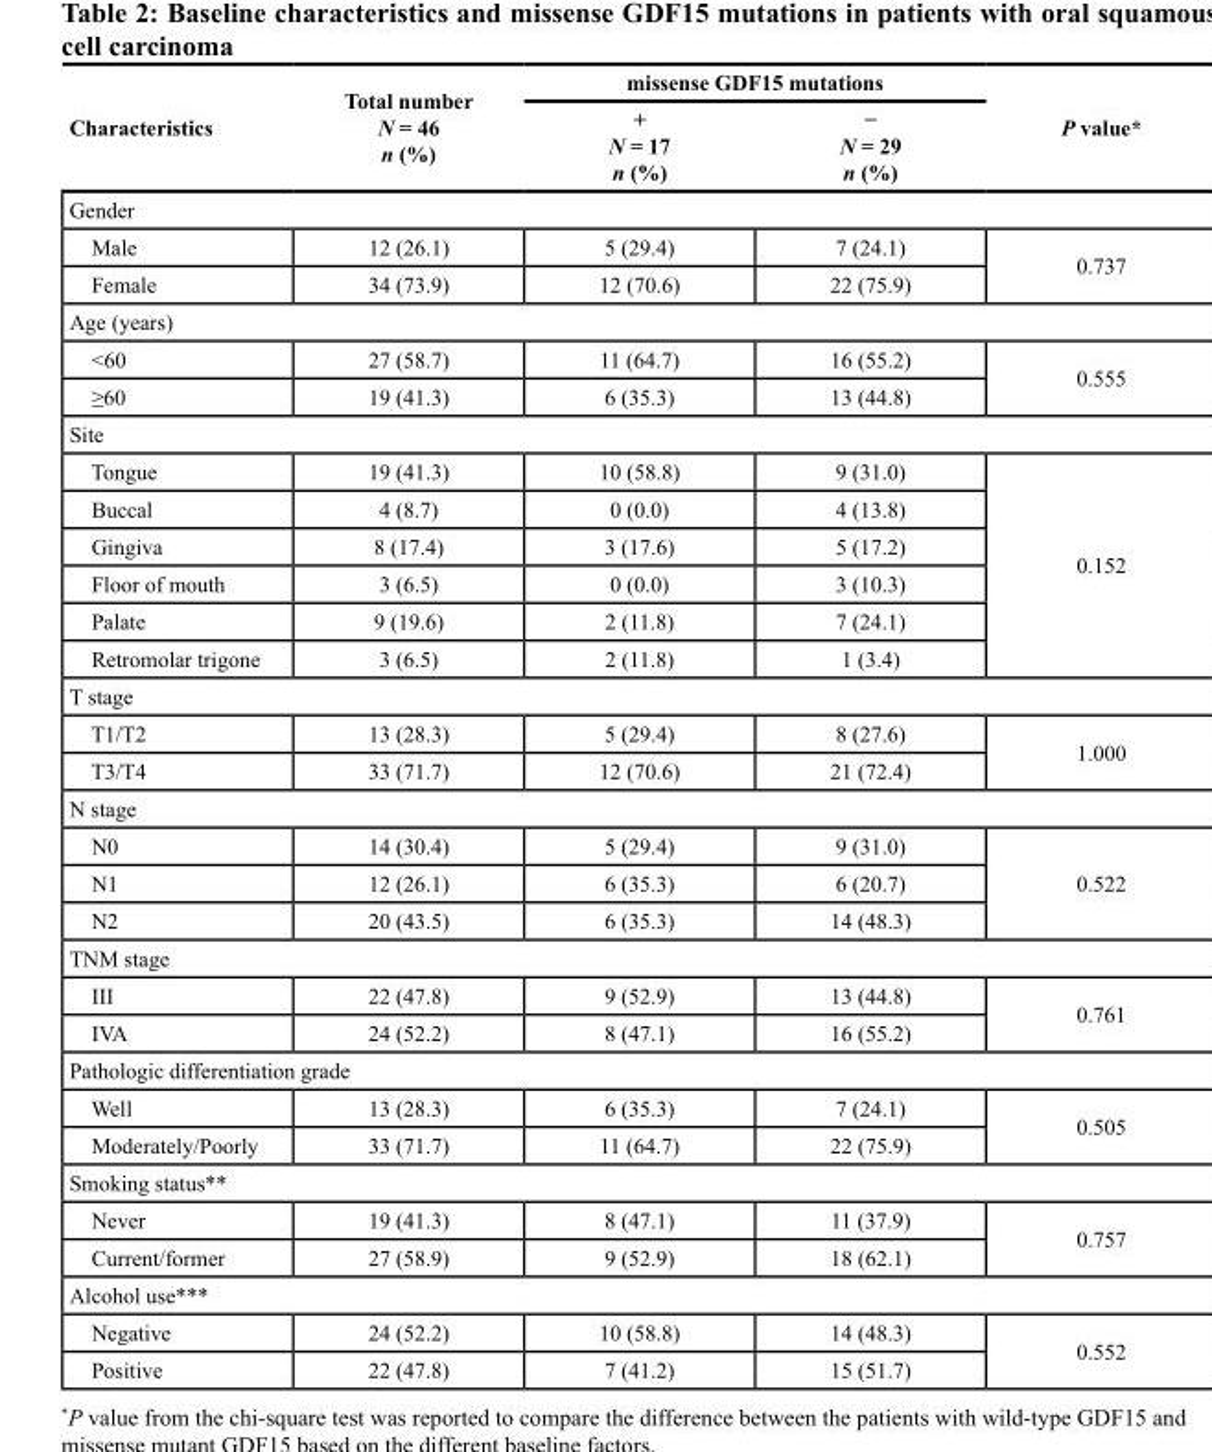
<table><thead><tr><td rowspan="2">Characteristics</td><td rowspan="2">Total number N = 46 n (%)</td><td colspan="2">missense GDF15 mutations</td><td rowspan="2">P value*</td></tr><tr><td>+ N = 17 n (%)</td><td>− N = 29 n (%)</td></tr></thead><tbody><tr><td colspan="5">Gender</td></tr><tr><td>Male</td><td>12 (26.1)</td><td>5 (29.4)</td><td>7 (24.1)</td><td rowspan="2">0.737</td></tr><tr><td>Female</td><td>34 (73.9)</td><td>12 (70.6)</td><td>22 (75.9)</td></tr><tr><td colspan="5">Age (years)</td></tr><tr><td>&lt;60</td><td>27 (58.7)</td><td>11 (64.7)</td><td>16 (55.2)</td><td rowspan="2">0.555</td></tr><tr><td>≥60</td><td>19 (41.3)</td><td>6 (35.3)</td><td>13 (44.8)</td></tr><tr><td colspan="5">Site</td></tr><tr><td>Tongue</td><td>19 (41.3)</td><td>10 (58.8)</td><td>9 (31.0)</td><td rowspan="6">0.152</td></tr><tr><td>Buccal</td><td>4 (8.7)</td><td>0 (0.0)</td><td>4 (13.8)</td></tr><tr><td>Gingiva</td><td>8 (17.4)</td><td>3 (17.6)</td><td>5 (17.2)</td></tr><tr><td>Floor of mouth</td><td>3 (6.5)</td><td>0 (0.0)</td><td>3 (10.3)</td></tr><tr><td>Palate</td><td>9 (19.6)</td><td>2 (11.8)</td><td>7 (24.1)</td></tr><tr><td>Retromolar trigone</td><td>3 (6.5)</td><td>2 (11.8)</td><td>1 (3.4)</td></tr><tr><td colspan="5">T stage</td></tr><tr><td>T1/T2</td><td>13 (28.3)</td><td>5 (29.4)</td><td>8 (27.6)</td><td rowspan="2">1.000</td></tr><tr><td>T3/T4</td><td>33 (71.7)</td><td>12 (70.6)</td><td>21 (72.4)</td></tr><tr><td colspan="5">N stage</td></tr><tr><td>N0</td><td>14 (30.4)</td><td>5 (29.4)</td><td>9 (31.0)</td><td rowspan="3">0.522</td></tr><tr><td>N1</td><td>12 (26.1)</td><td>6 (35.3)</td><td>6 (20.7)</td></tr><tr><td>N2</td><td>20 (43.5)</td><td>6 (35.3)</td><td>14 (48.3)</td></tr><tr><td colspan="5">TNM stage</td></tr><tr><td>III</td><td>22 (47.8)</td><td>9 (52.9)</td><td>13 (44.8)</td><td rowspan="2">0.761</td></tr><tr><td>IVA</td><td>24 (52.2)</td><td>8 (47.1)</td><td>16 (55.2)</td></tr><tr><td colspan="5">Pathologic differentiation grade</td></tr><tr><td>Well</td><td>13 (28.3)</td><td>6 (35.3)</td><td>7 (24.1)</td><td rowspan="2">0.505</td></tr><tr><td>Moderately/Poorly</td><td>33 (71.7)</td><td>11 (64.7)</td><td>22 (75.9)</td></tr><tr><td colspan="5">Smoking status**</td></tr><tr><td>Never</td><td>19 (41.3)</td><td>8 (47.1)</td><td>11 (37.9)</td><td rowspan="2">0.757</td></tr><tr><td>Current/former</td><td>27 (58.9)</td><td>9 (52.9)</td><td>18 (62.1)</td></tr><tr><td colspan="5">Alcohol use***</td></tr><tr><td>Negative</td><td>24 (52.2)</td><td>10 (58.8)</td><td>14 (48.3)</td><td rowspan="2">0.552</td></tr><tr><td>Positive</td><td>22 (47.8)</td><td>7 (41.2)</td><td>15 (51.7)</td></tr></tbody></table>